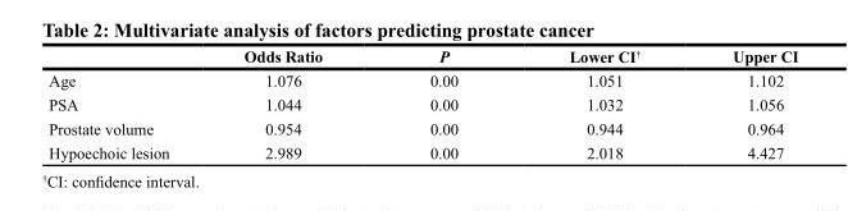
<table><thead><tr><td></td><td>Odds Ratio</td><td>P</td><td>Lower CI<sup>†</sup></td><td>Upper CI</td></tr></thead><tbody><tr><td>Age</td><td>1.076</td><td>0.00</td><td>1.051</td><td>1.102</td></tr><tr><td>PSA</td><td>1.044</td><td>0.00</td><td>1.032</td><td>1.056</td></tr><tr><td>Prostate volume</td><td>0.954</td><td>0.00</td><td>0.944</td><td>0.964</td></tr><tr><td>Hypoechoic lesion</td><td>2.989</td><td>0.00</td><td>2.018</td><td>4.427</td></tr></tbody></table>